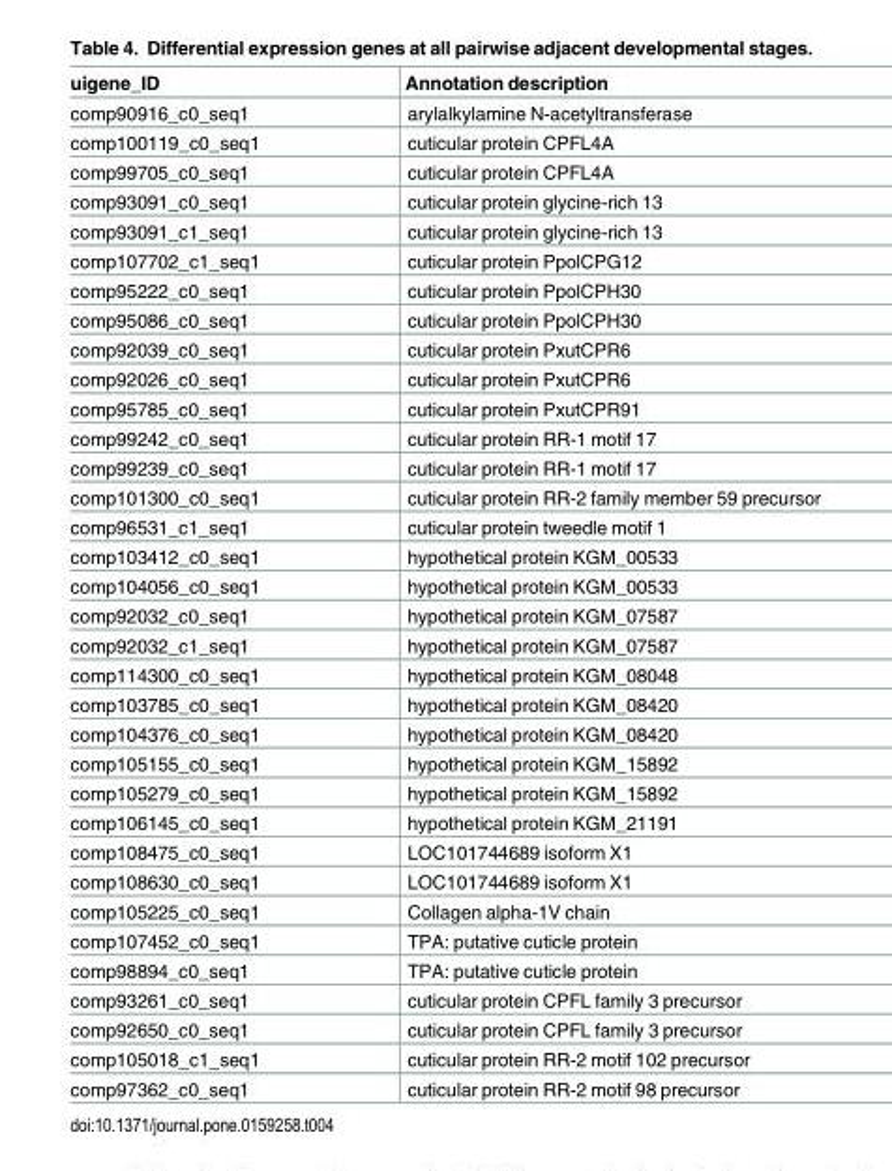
<table><thead><tr><td>uigene_ID</td><td>Annotation description</td></tr></thead><tbody><tr><td>comp90916_c0_seq1</td><td>arylalkylamine N-acetyltransferase</td></tr><tr><td>comp100119_c0_seq1</td><td>cuticular protein CPFL4A</td></tr><tr><td>comp99705_c0_seq1</td><td>cuticular protein CPFL4A</td></tr><tr><td>comp93091_c0_seq1</td><td>cuticular protein glycine-rich 13</td></tr><tr><td>comp93091_c1_seq1</td><td>cuticular protein glycine-rich 13</td></tr><tr><td>comp107702_c1_seq1</td><td>cuticular protein PpolCPG12</td></tr><tr><td>comp95222_c0_seq1</td><td>cuticular protein PpolCPH30</td></tr><tr><td>comp95086_c0_seq1</td><td>cuticular protein PpolCPH30</td></tr><tr><td>comp92039_c0_seq1</td><td>cuticular protein PxutCPR6</td></tr><tr><td>comp92026_c0_seq1</td><td>cuticular protein PxutCPR6</td></tr><tr><td>comp95785_c0_seq1</td><td>cuticular protein PxutCPR91</td></tr><tr><td>comp99242_c0_seq1</td><td>cuticular protein RR-1 motif 17</td></tr><tr><td>comp99239_c0_seq1</td><td>cuticular protein RR-1 motif 17</td></tr><tr><td>comp101300_c0_seq1</td><td>cuticular protein RR-2 family member 59 precursor</td></tr><tr><td>comp96531_c1_seq1</td><td>cuticular protein tweedle motif 1</td></tr><tr><td>comp103412_c0_seq1</td><td>hypothetical protein KGM_00533</td></tr><tr><td>comp104056_c0_seq1</td><td>hypothetical protein KGM_00533</td></tr><tr><td>comp92032_c0_seq1</td><td>hypothetical protein KGM_07587</td></tr><tr><td>comp92032_c1_seq1</td><td>hypothetical protein KGM_07587</td></tr><tr><td>comp114300_c0_seq1</td><td>hypothetical protein KGM_08048</td></tr><tr><td>comp103785_c0_seq1</td><td>hypothetical protein KGM_08420</td></tr><tr><td>comp104376_c0_seq1</td><td>hypothetical protein KGM_08420</td></tr><tr><td>comp105155_c0_seq1</td><td>hypothetical protein KGM_15892</td></tr><tr><td>comp105279_c0_seq1</td><td>hypothetical protein KGM_15892</td></tr><tr><td>comp106145_c0_seq1</td><td>hypothetical protein KGM_21191</td></tr><tr><td>comp108475_c0_seq1</td><td>LOC101744689 isoform X1</td></tr><tr><td>comp108630_c0_seq1</td><td>LOC101744689 isoform X1</td></tr><tr><td>comp105225_c0_seq1</td><td>Collagen alpha-1V chain</td></tr><tr><td>comp107452_c0_seq1</td><td>TPA: putative cuticle protein</td></tr><tr><td>comp98894_c0_seq1</td><td>TPA: putative cuticle protein</td></tr><tr><td>comp93261_c0_seq1</td><td>cuticular protein CPFL family 3 precursor</td></tr><tr><td>comp92650_c0_seq1</td><td>cuticular protein CPFL family 3 precursor</td></tr><tr><td>comp105018_c1_seq1</td><td>cuticular protein RR-2 motif 102 precursor</td></tr><tr><td>comp97362_c0_seq1</td><td>cuticular protein RR-2 motif 98 precursor</td></tr></tbody></table>